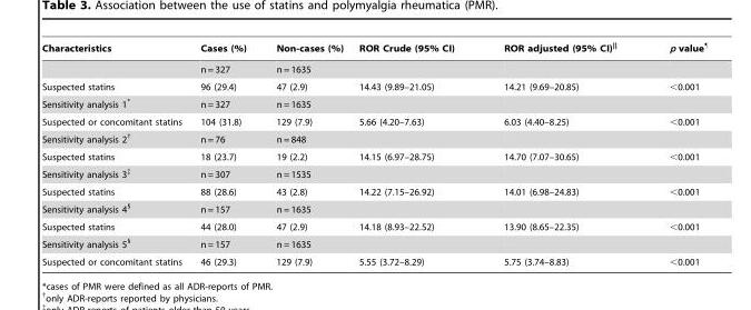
<table><thead><tr><td>Characteristics</td><td>Cases (%)</td><td>Non-cases (%)</td><td>ROR Crude (95% CI)</td><td>ROR adjusted (95% CI)||</td><td>p value¶</td></tr></thead><tbody><tr><td></td><td>n = 327</td><td>n = 1635</td><td></td><td></td><td></td></tr><tr><td>Suspected statins</td><td>96 (29.4)</td><td>47 (2.9)</td><td>14.43 (9.89–21.05)</td><td>14.21 (9.69–20.85)</td><td>&lt;0.001</td></tr><tr><td>Sensitivity analysis 1*</td><td>n = 327</td><td>n = 1635</td><td></td><td></td><td></td></tr><tr><td>Suspected or concomitant statins</td><td>104 (31.8)</td><td>129 (7.9)</td><td>5.66 (4.20–7.63)</td><td>6.03 (4.40–8.25)</td><td>&lt;0.001</td></tr><tr><td>Sensitivity analysis 2†</td><td>n = 76</td><td>n = 848</td><td></td><td></td><td></td></tr><tr><td>Suspected statins</td><td>18 (23.7)</td><td>19 (2.2)</td><td>14.15 (6.97–28.75)</td><td>14.70 (7.07–30.65)</td><td>&lt;0.001</td></tr><tr><td>Sensitivity analysis 3‡</td><td>n = 307</td><td>n = 1535</td><td></td><td></td><td></td></tr><tr><td>Suspected statins</td><td>88 (28.6)</td><td>43 (2.8)</td><td>14.22 (7.15–26.92)</td><td>14.01 (6.98–24.83)</td><td>&lt;0.001</td></tr><tr><td>Sensitivity analysis 4§</td><td>n = 157</td><td>n = 1635</td><td></td><td></td><td></td></tr><tr><td>Suspected statins</td><td>44 (28.0)</td><td>47 (2.9)</td><td>14.18 (8.93–22.52)</td><td>13.90 (8.65–22.35)</td><td>&lt;0.001</td></tr><tr><td>Sensitivity analysis 5§</td><td>n = 157</td><td>n = 1635</td><td></td><td></td><td></td></tr><tr><td>Suspected or concomitant statins</td><td>46 (29.3)</td><td>129 (7.9)</td><td>5.55 (3.72–8.29)</td><td>5.75 (3.74–8.83)</td><td>&lt;0.001</td></tr></tbody></table>